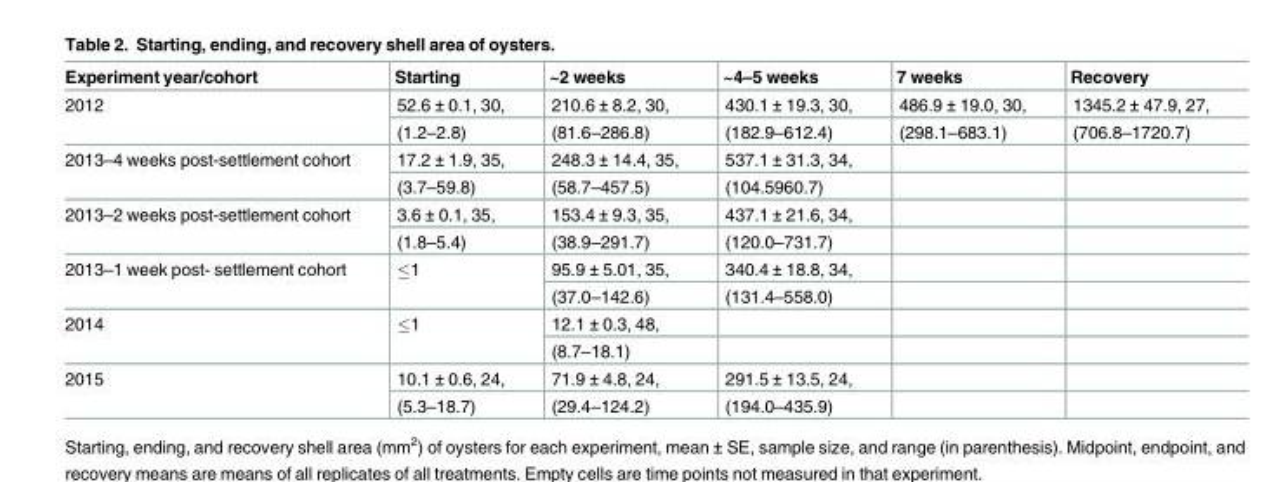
<table><thead><tr><td>Experiment year/cohort</td><td>Starting</td><td>~2 weeks</td><td>~4–5 weeks</td><td>7 weeks</td><td>Recovery</td></tr></thead><tbody><tr><td rowspan="2">2012</td><td>52.6 ± 0.1, 30,</td><td>210.6 ± 8.2, 30,</td><td>430.1 ± 19.3, 30,</td><td>486.9 ± 19.0, 30,</td><td>1345.2 ± 47.9, 27,</td></tr><tr><td>(1.2–2.8)</td><td>(81.6–286.8)</td><td>(182.9–612.4)</td><td>(298.1–683.1)</td><td>(706.8–1720.7)</td></tr><tr><td rowspan="2">2013–4 weeks post-settlement cohort</td><td>17.2 ± 1.9, 35,</td><td>248.3 ± 14.4, 35,</td><td>537.1 ± 31.3, 34,</td><td></td><td></td></tr><tr><td>(3.7–59.8)</td><td>(58.7–457.5)</td><td>(104.5960.7)</td><td></td><td></td></tr><tr><td rowspan="2">2013–2 weeks post-settlement cohort</td><td>3.6 ± 0.1, 35,</td><td>153.4 ± 9.3, 35,</td><td>437.1 ± 21.6, 34,</td><td></td><td></td></tr><tr><td>(1.8–5.4)</td><td>(38.9–291.7)</td><td>(120.0–731.7)</td><td></td><td></td></tr><tr><td rowspan="2">2013–1 week post- settlement cohort</td><td rowspan="2">≤1</td><td>95.9 ± 5.01, 35,</td><td>340.4 ± 18.8, 34,</td><td></td><td></td></tr><tr><td>(37.0–142.6)</td><td>(131.4–558.0)</td><td></td><td></td></tr><tr><td rowspan="2">2014</td><td rowspan="2">≤1</td><td>12.1 ± 0.3, 48,</td><td></td><td></td><td></td></tr><tr><td>(8.7–18.1)</td><td></td><td></td><td></td></tr><tr><td rowspan="2">2015</td><td>10.1 ± 0.6, 24,</td><td>71.9 ± 4.8, 24,</td><td>291.5 ± 13.5, 24,</td><td></td><td></td></tr><tr><td>(5.3–18.7)</td><td>(29.4–124.2)</td><td>(194.0–435.9)</td><td></td><td></td></tr></tbody></table>